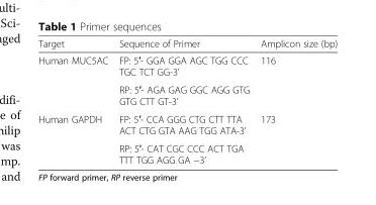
<table><thead><tr><td>Target</td><td>Sequence of Primer</td><td>Amplicon size (bp)</td></tr></thead><tbody><tr><td rowspan="2">Human MUC5AC</td><td>FP: 5′- GGA GGA AGC TGG CCC TGC TCT GG-3’</td><td>116</td></tr><tr><td>RP: 5′- AGA GAG GGC AGG GTG GTG CTT GT-3’</td><td></td></tr><tr><td rowspan="2">Human GAPDH</td><td>FP: 5′- CCA GGG CTG CTT TTA ACT CTG GTA AAG TGG ATA-3’</td><td>173</td></tr><tr><td>RP: 5′- CAT CGC CCC ACT TGA TTT TGG AGG GA −3’</td><td></td></tr></tbody></table>